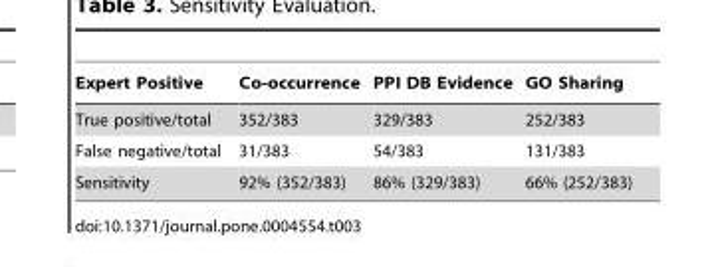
<table><thead><tr><td>Expert Positive</td><td>Co-occurrence</td><td>PPI DB Evidence</td><td>GO Sharing</td></tr></thead><tbody><tr><td>True positive/total</td><td>352/383</td><td>329/383</td><td>252/383</td></tr><tr><td>False negative/total</td><td>31/383</td><td>54/383</td><td>131/383</td></tr><tr><td>Sensitivity</td><td>92% (352/383)</td><td>86% (329/383)</td><td>66% (252/383)</td></tr></tbody></table>